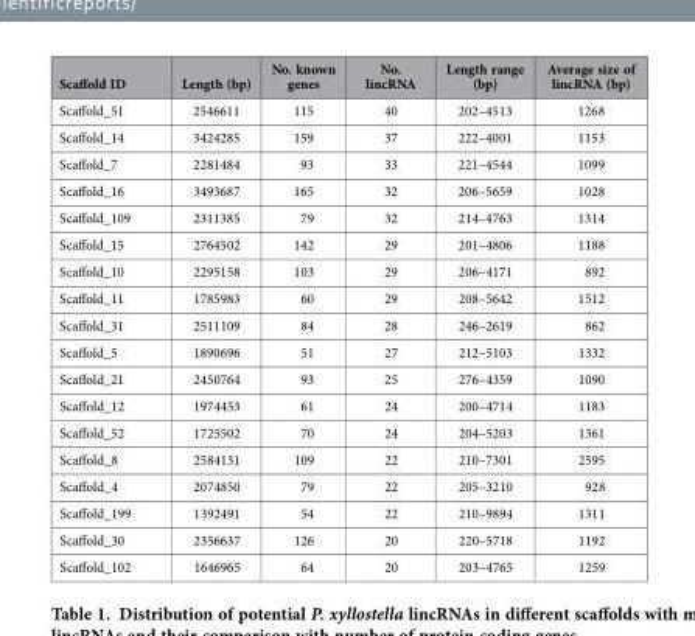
<table><thead><tr><td>Scaffold ID</td><td>Length (bp)</td><td>No. known genes</td><td>No. lincRNA</td><td>Length range (bp)</td><td>Average size of lincRNA (bp)</td></tr></thead><tbody><tr><td>Scaffold_51</td><td>2546611</td><td>115</td><td>40</td><td>202–4513</td><td>1268</td></tr><tr><td>Scaffold_14</td><td>3424285</td><td>159</td><td>37</td><td>222–4001</td><td>1153</td></tr><tr><td>Scaffold_7</td><td>2281484</td><td>93</td><td>33</td><td>221–4544</td><td>1099</td></tr><tr><td>Scaffold_16</td><td>3493687</td><td>165</td><td>32</td><td>206–5659</td><td>1028</td></tr><tr><td>Scaffold_109</td><td>2311385</td><td>79</td><td>32</td><td>214–4763</td><td>1314</td></tr><tr><td>Scaffold_15</td><td>2764502</td><td>142</td><td>29</td><td>201–4806</td><td>1188</td></tr><tr><td>Scaffold_10</td><td>2295158</td><td>103</td><td>29</td><td>206–4171</td><td>892</td></tr><tr><td>Scaffold_11</td><td>1785983</td><td>60</td><td>29</td><td>208–5642</td><td>1512</td></tr><tr><td>Scaffold_31</td><td>2511109</td><td>84</td><td>28</td><td>246–2619</td><td>862</td></tr><tr><td>Scaffold_5</td><td>1890696</td><td>51</td><td>27</td><td>212–5103</td><td>1332</td></tr><tr><td>Scaffold_21</td><td>2450764</td><td>93</td><td>25</td><td>276–4359</td><td>1090</td></tr><tr><td>Scaffold_12</td><td>1974453</td><td>61</td><td>24</td><td>200–4714</td><td>1183</td></tr><tr><td>Scaffold_52</td><td>1725502</td><td>70</td><td>24</td><td>204–5203</td><td>1361</td></tr><tr><td>Scaffold_8</td><td>2584131</td><td>109</td><td>22</td><td>210–7301</td><td>2595</td></tr><tr><td>Scaffold_4</td><td>2074850</td><td>79</td><td>22</td><td>205–3210</td><td>928</td></tr><tr><td>Scaffold_199</td><td>1392491</td><td>54</td><td>22</td><td>210–9894</td><td>1311</td></tr><tr><td>Scaffold_30</td><td>2356637</td><td>126</td><td>20</td><td>220–5718</td><td>1192</td></tr><tr><td>Scaffold_102</td><td>1646965</td><td>64</td><td>20</td><td>203–4765</td><td>1259</td></tr></tbody></table>